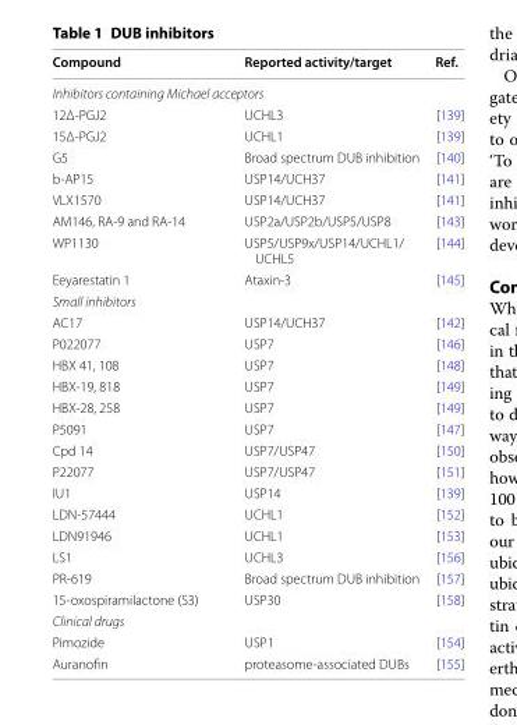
<table><thead><tr><td>Compound</td><td>Reported activity/target</td><td>Ref.</td></tr></thead><tbody><tr><td colspan="3">Inhibitors containing Michael acceptors</td></tr><tr><td>12Δ-PGJ2</td><td>UCHL3</td><td>[139]</td></tr><tr><td>15Δ-PGJ2</td><td>UCHL1</td><td>[139]</td></tr><tr><td>G5</td><td>Broad spectrum DUB inhibition</td><td>[140]</td></tr><tr><td>b-AP15</td><td>USP14/UCH37</td><td>[141]</td></tr><tr><td>VLX1570</td><td>USP14/UCH37</td><td>[141]</td></tr><tr><td>AM146, RA-9 and RA-14</td><td>USP2a/USP2b/USP5/USP8</td><td>[143]</td></tr><tr><td>WP1130</td><td>USP5/USP9x/USP14/UCHL1/ UCHL5</td><td>[144]</td></tr><tr><td>Eeyarestatin 1</td><td>Ataxin-3</td><td>[145]</td></tr><tr><td colspan="3">Small inhibitors</td></tr><tr><td>AC17</td><td>USP14/UCH37</td><td>[142]</td></tr><tr><td>P022077</td><td>USP7</td><td>[146]</td></tr><tr><td>HBX 41, 108</td><td>USP7</td><td>[148]</td></tr><tr><td>HBX-19, 818</td><td>USP7</td><td>[149]</td></tr><tr><td>HBX-28, 258</td><td>USP7</td><td>[149]</td></tr><tr><td>P5091</td><td>USP7</td><td>[147]</td></tr><tr><td>Cpd 14</td><td>USP7/USP47</td><td>[150]</td></tr><tr><td>P22077</td><td>USP7/USP47</td><td>[151]</td></tr><tr><td>IU1</td><td>USP14</td><td>[139]</td></tr><tr><td>LDN-57444</td><td>UCHL1</td><td>[152]</td></tr><tr><td>LDN91946</td><td>UCHL1</td><td>[153]</td></tr><tr><td>LS1</td><td>UCHL3</td><td>[156]</td></tr><tr><td>PR-619</td><td>Broad spectrum DUB inhibition</td><td>[157]</td></tr><tr><td>15-oxospiramilactone (S3)</td><td>USP30</td><td>[158]</td></tr><tr><td colspan="3">Clinical drugs</td></tr><tr><td>Pimozide</td><td>USP1</td><td>[154]</td></tr><tr><td>Auranofin</td><td>proteasome-associated DUBs</td><td>[155]</td></tr></tbody></table>